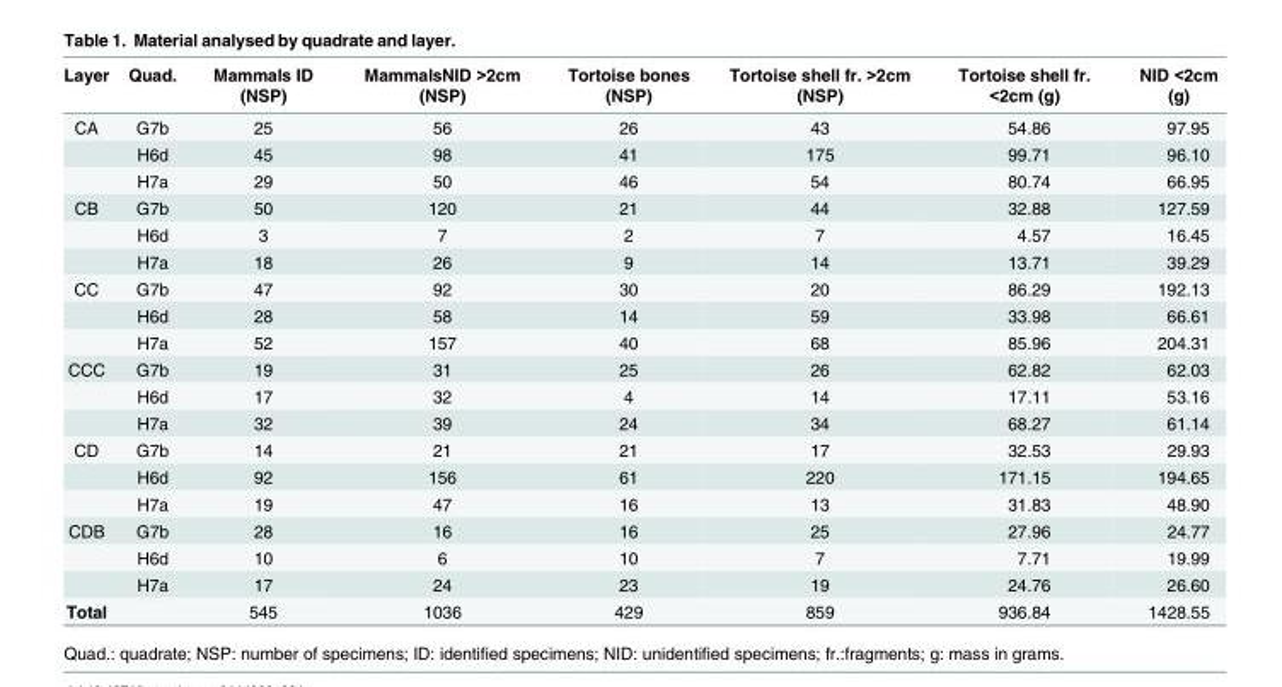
<table><thead><tr><td>Layer</td><td>Quad.</td><td>Mammals ID (NSP)</td><td>MammalsNID &gt;2cm (NSP)</td><td>Tortoise bones (NSP)</td><td>Tortoise shell fr. &gt;2cm (NSP)</td><td>Tortoise shell fr. &lt;2cm (g)</td><td>NID &lt;2cm (g)</td></tr></thead><tbody><tr><td rowspan="3">CA</td><td>G7b</td><td>25</td><td>56</td><td>26</td><td>43</td><td>54.86</td><td>97.95</td></tr><tr><td>H6d</td><td>45</td><td>98</td><td>41</td><td>175</td><td>99.71</td><td>96.10</td></tr><tr><td>H7a</td><td>29</td><td>50</td><td>46</td><td>54</td><td>80.74</td><td>66.95</td></tr><tr><td rowspan="3">CB</td><td>G7b</td><td>50</td><td>120</td><td>21</td><td>44</td><td>32.88</td><td>127.59</td></tr><tr><td>H6d</td><td>3</td><td>7</td><td>2</td><td>7</td><td>4.57</td><td>16.45</td></tr><tr><td>H7a</td><td>18</td><td>26</td><td>9</td><td>14</td><td>13.71</td><td>39.29</td></tr><tr><td rowspan="3">CC</td><td>G7b</td><td>47</td><td>92</td><td>30</td><td>20</td><td>86.29</td><td>192.13</td></tr><tr><td>H6d</td><td>28</td><td>58</td><td>14</td><td>59</td><td>33.98</td><td>66.61</td></tr><tr><td>H7a</td><td>52</td><td>157</td><td>40</td><td>68</td><td>85.96</td><td>204.31</td></tr><tr><td rowspan="3">CCC</td><td>G7b</td><td>19</td><td>31</td><td>25</td><td>26</td><td>62.82</td><td>62.03</td></tr><tr><td>H6d</td><td>17</td><td>32</td><td>4</td><td>14</td><td>17.11</td><td>53.16</td></tr><tr><td>H7a</td><td>32</td><td>39</td><td>24</td><td>34</td><td>68.27</td><td>61.14</td></tr><tr><td rowspan="3">CD</td><td>G7b</td><td>14</td><td>21</td><td>21</td><td>17</td><td>32.53</td><td>29.93</td></tr><tr><td>H6d</td><td>92</td><td>156</td><td>61</td><td>220</td><td>171.15</td><td>194.65</td></tr><tr><td>H7a</td><td>19</td><td>47</td><td>16</td><td>13</td><td>31.83</td><td>48.90</td></tr><tr><td rowspan="3">CDB</td><td>G7b</td><td>28</td><td>16</td><td>16</td><td>25</td><td>27.96</td><td>24.77</td></tr><tr><td>H6d</td><td>10</td><td>6</td><td>10</td><td>7</td><td>7.71</td><td>19.99</td></tr><tr><td>H7a</td><td>17</td><td>24</td><td>23</td><td>19</td><td>24.76</td><td>26.60</td></tr><tr><td>Total</td><td></td><td>545</td><td>1036</td><td>429</td><td>859</td><td>936.84</td><td>1428.55</td></tr></tbody></table>